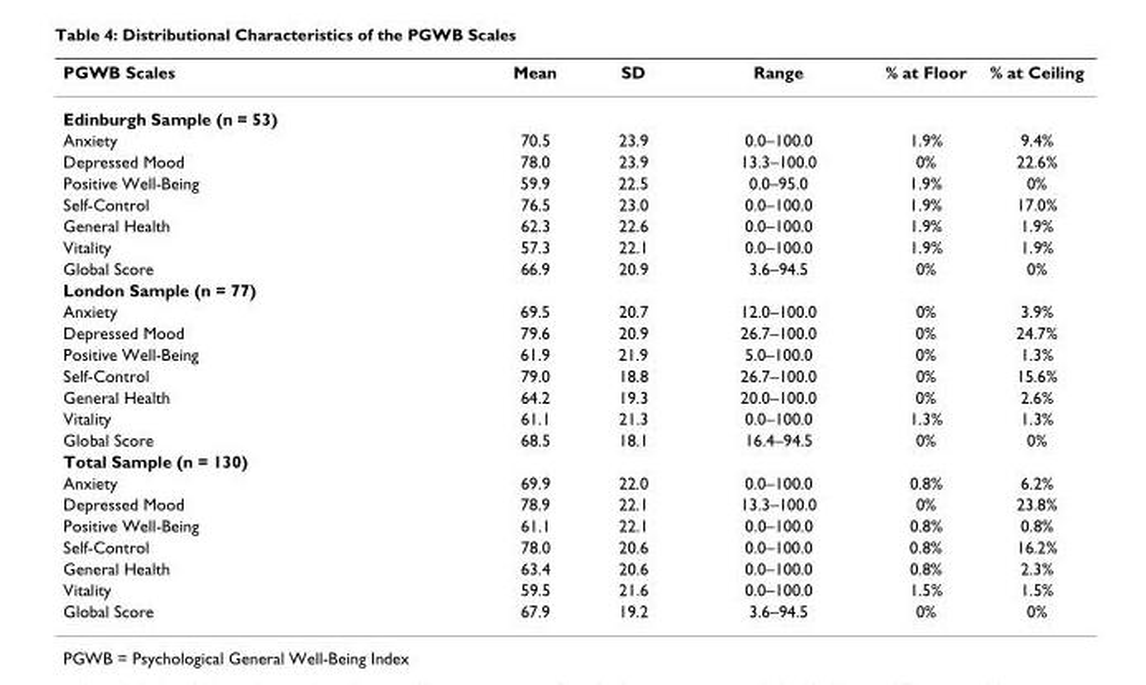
<table><thead><tr><td>PGWB Scales</td><td>Mean</td><td>SD</td><td>Range</td><td>% at Floor</td><td>% at Ceiling</td></tr></thead><tbody><tr><td colspan="6">Edinburgh Sample (n = 53)</td></tr><tr><td>Anxiety</td><td>70.5</td><td>23.9</td><td>0.0–100.0</td><td>1.9%</td><td>9.4%</td></tr><tr><td>Depressed Mood</td><td>78.0</td><td>23.9</td><td>13.3–100.0</td><td>0%</td><td>22.6%</td></tr><tr><td>Positive Well-Being</td><td>59.9</td><td>22.5</td><td>0.0–95.0</td><td>1.9%</td><td>0%</td></tr><tr><td>Self-Control</td><td>76.5</td><td>23.0</td><td>0.0–100.0</td><td>1.9%</td><td>17.0%</td></tr><tr><td>General Health</td><td>62.3</td><td>22.6</td><td>0.0–100.0</td><td>1.9%</td><td>1.9%</td></tr><tr><td>Vitality</td><td>57.3</td><td>22.1</td><td>0.0–100.0</td><td>1.9%</td><td>1.9%</td></tr><tr><td>Global Score</td><td>66.9</td><td>20.9</td><td>3.6–94.5</td><td>0%</td><td>0%</td></tr><tr><td colspan="6">London Sample (n = 77)</td></tr><tr><td>Anxiety</td><td>69.5</td><td>20.7</td><td>12.0–100.0</td><td>0%</td><td>3.9%</td></tr><tr><td>Depressed Mood</td><td>79.6</td><td>20.9</td><td>26.7–100.0</td><td>0%</td><td>24.7%</td></tr><tr><td>Positive Well-Being</td><td>61.9</td><td>21.9</td><td>5.0–100.0</td><td>0%</td><td>1.3%</td></tr><tr><td>Self-Control</td><td>79.0</td><td>18.8</td><td>26.7–100.0</td><td>0%</td><td>15.6%</td></tr><tr><td>General Health</td><td>64.2</td><td>19.3</td><td>20.0–100.0</td><td>0%</td><td>2.6%</td></tr><tr><td>Vitality</td><td>61.1</td><td>21.3</td><td>0.0–100.0</td><td>1.3%</td><td>1.3%</td></tr><tr><td>Global Score</td><td>68.5</td><td>18.1</td><td>16.4–94.5</td><td>0%</td><td>0%</td></tr><tr><td colspan="6">Total Sample (n = 130)</td></tr><tr><td>Anxiety</td><td>69.9</td><td>22.0</td><td>0.0–100.0</td><td>0.8%</td><td>6.2%</td></tr><tr><td>Depressed Mood</td><td>78.9</td><td>22.1</td><td>13.3–100.0</td><td>0%</td><td>23.8%</td></tr><tr><td>Positive Well-Being</td><td>61.1</td><td>22.1</td><td>0.0–100.0</td><td>0.8%</td><td>0.8%</td></tr><tr><td>Self-Control</td><td>78.0</td><td>20.6</td><td>0.0–100.0</td><td>0.8%</td><td>16.2%</td></tr><tr><td>General Health</td><td>63.4</td><td>20.6</td><td>0.0–100.0</td><td>0.8%</td><td>2.3%</td></tr><tr><td>Vitality</td><td>59.5</td><td>21.6</td><td>0.0–100.0</td><td>1.5%</td><td>1.5%</td></tr><tr><td>Global Score</td><td>67.9</td><td>19.2</td><td>3.6–94.5</td><td>0%</td><td>0%</td></tr></tbody></table>